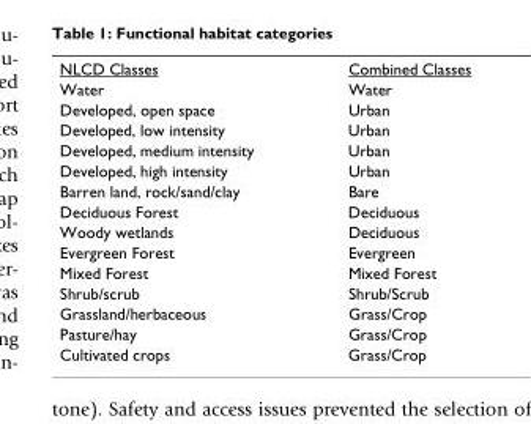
<table><tbody><tr><td>NLCD Classes</td><td>Combined Classes</td></tr><tr><td>Water</td><td>Water</td></tr><tr><td>Developed, open space</td><td>Urban</td></tr><tr><td>Developed, low intensity</td><td>Urban</td></tr><tr><td>Developed, medium intensity</td><td>Urban</td></tr><tr><td>Developed, high intensity</td><td>Urban</td></tr><tr><td>Barren land, rock/sand/clay</td><td>Bare</td></tr><tr><td>Deciduous Forest</td><td>Deciduous</td></tr><tr><td>Woody wetlands</td><td>Deciduous</td></tr><tr><td>Evergreen Forest</td><td>Evergreen</td></tr><tr><td>Mixed Forest</td><td>Mixed Forest</td></tr><tr><td>Shrub/scrub</td><td>Shrub/Scrub</td></tr><tr><td>Grassland/herbaceous</td><td>Grass/Crop</td></tr><tr><td>Pasture/hay</td><td>Grass/Crop</td></tr><tr><td>Cultivated crops</td><td>Grass/Crop</td></tr></tbody></table>